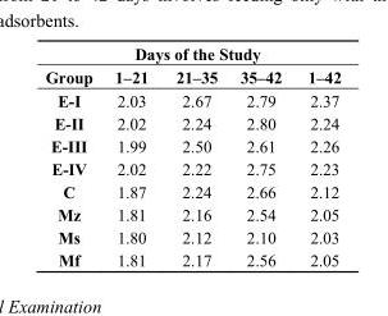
<table><thead><tr><td colspan="5">Days of the Study</td></tr><tr><td>Group</td><td>1–21</td><td>21–35</td><td>35–42</td><td>1–42</td></tr></thead><tbody><tr><td>E-I</td><td>2.03</td><td>2.67</td><td>2.79</td><td>2.37</td></tr><tr><td>E-II</td><td>2.02</td><td>2.24</td><td>2.80</td><td>2.24</td></tr><tr><td>E-III</td><td>1.99</td><td>2.50</td><td>2.61</td><td>2.26</td></tr><tr><td>E-IV</td><td>2.02</td><td>2.22</td><td>2.75</td><td>2.23</td></tr><tr><td>C</td><td>1.87</td><td>2.24</td><td>2.66</td><td>2.12</td></tr><tr><td>Mz</td><td>1.81</td><td>2.16</td><td>2.54</td><td>2.05</td></tr><tr><td>Ms</td><td>1.80</td><td>2.12</td><td>2.10</td><td>2.03</td></tr><tr><td>Mf</td><td>1.81</td><td>2.17</td><td>2.56</td><td>2.05</td></tr></tbody></table>